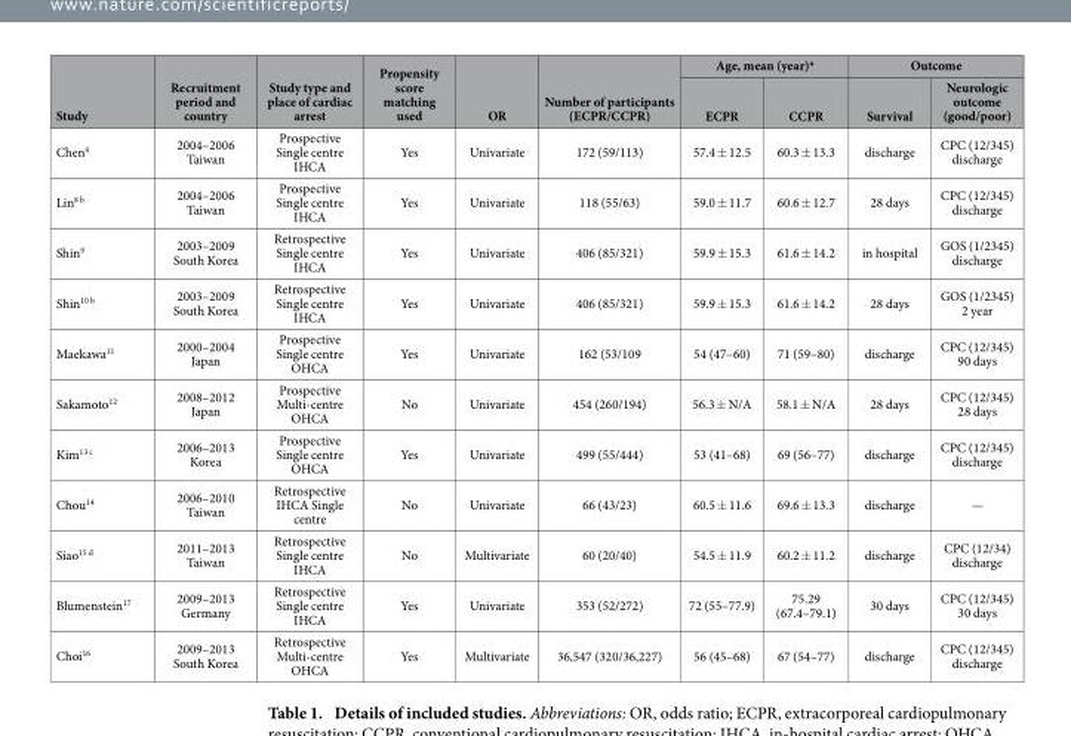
<table><thead><tr><td rowspan="2">Study</td><td rowspan="2">Recruitment period and country</td><td rowspan="2">Study type and place of cardiac arrest</td><td rowspan="2">Propensity score matching used</td><td rowspan="2">OR</td><td rowspan="2">Number of participants (ECPR/CCPR)</td><td colspan="2">Age, mean (year)<sup>a</sup></td><td colspan="2">Outcome</td></tr><tr><td>ECPR</td><td>CCPR</td><td>Survival</td><td>Neurologic outcome (good/poor)</td></tr></thead><tbody><tr><td>Chen<sup>4</sup></td><td>2004–2006 Taiwan</td><td>Prospective Single centre IHCA</td><td>Yes</td><td>Univariate</td><td>172 (59/113)</td><td>57.4 ± 12.5</td><td>60.3 ± 13.3</td><td>discharge</td><td>CPC (12/345) discharge</td></tr><tr><td>Lin<sup>8 b</sup></td><td>2004–2006 Taiwan</td><td>Prospective Single centre IHCA</td><td>Yes</td><td>Univariate</td><td>118 (55/63)</td><td>59.0 ± 11.7</td><td>60.6 ± 12.7</td><td>28 days</td><td>CPC (12/345) discharge</td></tr><tr><td>Shin<sup>9</sup></td><td>2003–2009 South Korea</td><td>Retrospective Single centre IHCA</td><td>Yes</td><td>Univariate</td><td>406 (85/321)</td><td>59.9 ± 15.3</td><td>61.6 ± 14.2</td><td>in hospital</td><td>GOS (1/2345) discharge</td></tr><tr><td>Shin<sup>10 b</sup></td><td>2003–2009 South Korea</td><td>Retrospective Single centre IHCA</td><td>Yes</td><td>Univariate</td><td>406 (85/321)</td><td>59.9 ± 15.3</td><td>61.6 ± 14.2</td><td>28 days</td><td>GOS (1/2345) 2 year</td></tr><tr><td>Maekawa<sup>11</sup></td><td>2000–2004 Japan</td><td>Prospective Single centre OHCA</td><td>Yes</td><td>Univariate</td><td>162 (53/109</td><td>54 (47–60)</td><td>71 (59–80)</td><td>discharge</td><td>CPC (12/345) 90 days</td></tr><tr><td>Sakamoto<sup>12</sup></td><td>2008–2012 Japan</td><td>Prospective Multi-centre OHCA</td><td>No</td><td>Univariate</td><td>454 (260/194)</td><td>56.3 ± N/A</td><td>58.1 ± N/A</td><td>28 days</td><td>CPC (12/345) 28 days</td></tr><tr><td>Kim<sup>13 c</sup></td><td>2006–2013 Korea</td><td>Prospective Single centre OHCA</td><td>Yes</td><td>Univariate</td><td>499 (55/444)</td><td>53 (41–68)</td><td>69 (56–77)</td><td>discharge</td><td>CPC (12/345) discharge</td></tr><tr><td>Chou<sup>14</sup></td><td>2006–2010 Taiwan</td><td>Retrospective IHCA Single centre</td><td>No</td><td>Univariate</td><td>66 (43/23)</td><td>60.5 ± 11.6</td><td>69.6 ± 13.3</td><td>discharge</td><td>—</td></tr><tr><td>Siao<sup>15 d</sup></td><td>2011–2013 Taiwan</td><td>Retrospective Single centre IHCA</td><td>No</td><td>Multivariate</td><td>60 (20/40)</td><td>54.5 ± 11.9</td><td>60.2 ± 11.2</td><td>discharge</td><td>CPC (12/34) discharge</td></tr><tr><td>Blumenstein<sup>17</sup></td><td>2009–2013 Germany</td><td>Retrospective Single centre IHCA</td><td>Yes</td><td>Univariate</td><td>353 (52/272)</td><td>72 (55–77.9)</td><td>75.29 (67.4–79.1)</td><td>30 days</td><td>CPC (12/345) 30 days</td></tr><tr><td>Choi<sup>16</sup></td><td>2009–2013 South Korea</td><td>Retrospective Multi-centre OHCA</td><td>Yes</td><td>Multivariate</td><td>36,547 (320/36,227)</td><td>56 (45–68)</td><td>67 (54–77)</td><td>discharge</td><td>CPC (12/345) discharge</td></tr></tbody></table>